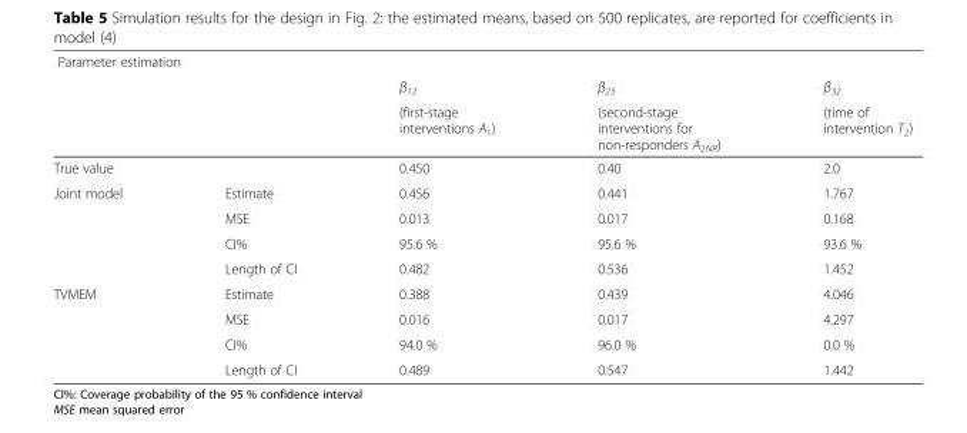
<table><tbody><tr><td colspan="5">Parameter estimation</td></tr><tr><td colspan="2"></td><td>β<sub>12</sub></td><td>β<sub>23</sub></td><td>β<sub>32</sub></td></tr><tr><td colspan="2"></td><td>(first-stage interventions A<sub>1</sub>)</td><td>(second-stage interventions for non-responders A<sub>2NR</sub>)</td><td>(time of intervention T<sub>2</sub>)</td></tr><tr><td colspan="2">True value</td><td>0.450</td><td>0.40</td><td>2.0</td></tr><tr><td rowspan="4">Joint model</td><td>Estimate</td><td>0.456</td><td>0.441</td><td>1.767</td></tr><tr><td>MSE</td><td>0.013</td><td>0.017</td><td>0.168</td></tr><tr><td>CI%</td><td>95.6 %</td><td>95.6 %</td><td>93.6 %</td></tr><tr><td>Length of CI</td><td>0.482</td><td>0.536</td><td>1.452</td></tr><tr><td rowspan="4">TVMEM</td><td>Estimate</td><td>0.388</td><td>0.439</td><td>4.046</td></tr><tr><td>MSE</td><td>0.016</td><td>0.017</td><td>4.297</td></tr><tr><td>CI%</td><td>94.0 %</td><td>96.0 %</td><td>0.0 %</td></tr><tr><td>Length of CI</td><td>0.489</td><td>0.547</td><td>1.442</td></tr></tbody></table>